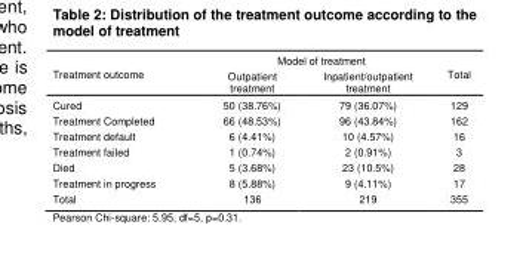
<table><thead><tr><td rowspan="2">Treatment outcome</td><td colspan="2">Model of treatment</td><td rowspan="2">Total</td></tr><tr><td>Outpatient treatment</td><td>Inpatient/outpatient treatment</td></tr></thead><tbody><tr><td>Cured</td><td>50 (38.76%)</td><td>79 (36.07%)</td><td>129</td></tr><tr><td>Treatment Completed</td><td>66 (48.53%)</td><td>96 (43.84%)</td><td>162</td></tr><tr><td>Treatment default</td><td>6 (4.41%)</td><td>10 (4.57%)</td><td>16</td></tr><tr><td>Treatment failed</td><td>1 (0.74%)</td><td>2 (0.91%)</td><td>3</td></tr><tr><td>Died</td><td>5 (3.68%)</td><td>23 (10.5%)</td><td>28</td></tr><tr><td>Treatment in progress</td><td>8 (5.88%)</td><td>9 (4.11%)</td><td>17</td></tr><tr><td>Total</td><td>136</td><td>219</td><td>355</td></tr></tbody></table>